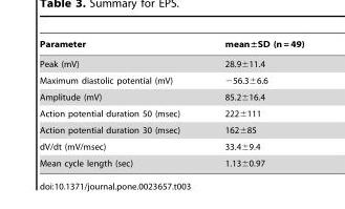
<table><thead><tr><td>Parameter</td><td>mean±SD (n = 49)</td></tr></thead><tbody><tr><td>Peak (mV)</td><td>28.9±11.4</td></tr><tr><td>Maximum diastolic potential (mV)</td><td>−56.3±6.6</td></tr><tr><td>Amplitude (mV)</td><td>85.2±16.4</td></tr><tr><td>Action potential duration 50 (msec)</td><td>222±111</td></tr><tr><td>Action potential duration 30 (msec)</td><td>162±85</td></tr><tr><td>dV/dt (mV/msec)</td><td>33.4±9.4</td></tr><tr><td>Mean cycle length (sec)</td><td>1.13±0.97</td></tr></tbody></table>